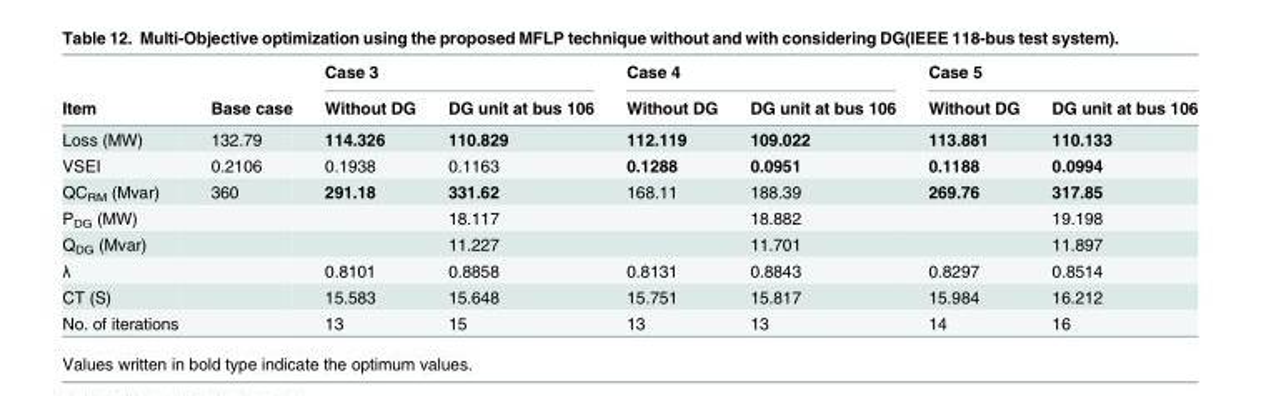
<table><thead><tr><td rowspan="2">Item</td><td rowspan="2">Base case</td><td colspan="2">Case 3</td><td colspan="2">Case 4</td><td colspan="2">Case 5</td></tr><tr><td>Without DG</td><td>DG unit at bus 106</td><td>Without DG</td><td>DG unit at bus 106</td><td>Without DG</td><td>DG unit at bus 106</td></tr></thead><tbody><tr><td>Loss (MW)</td><td>132.79</td><td>114.326</td><td>110.829</td><td>112.119</td><td>109.022</td><td>113.881</td><td>110.133</td></tr><tr><td>VSEI</td><td>0.2106</td><td>0.1938</td><td>0.1163</td><td>0.1288</td><td>0.0951</td><td>0.1188</td><td>0.0994</td></tr><tr><td>QC<sub>RM</sub> (Mvar)</td><td>360</td><td>291.18</td><td>331.62</td><td>168.11</td><td>188.39</td><td>269.76</td><td>317.85</td></tr><tr><td>P<sub>DG</sub> (MW)</td><td></td><td></td><td>18.117</td><td></td><td>18.882</td><td></td><td>19.198</td></tr><tr><td>Q<sub>DG</sub> (Mvar)</td><td></td><td></td><td>11.227</td><td></td><td>11.701</td><td></td><td>11.897</td></tr><tr><td>λ</td><td></td><td>0.8101</td><td>0.8858</td><td>0.8131</td><td>0.8843</td><td>0.8297</td><td>0.8514</td></tr><tr><td>CT (S)</td><td></td><td>15.583</td><td>15.648</td><td>15.751</td><td>15.817</td><td>15.984</td><td>16.212</td></tr><tr><td>No. of iterations</td><td></td><td>13</td><td>15</td><td>13</td><td>13</td><td>14</td><td>16</td></tr></tbody></table>